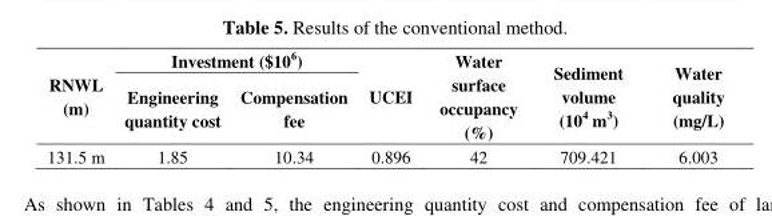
<table><thead><tr><td rowspan="2">RNWL (m)</td><td colspan="2">Investment ($10<sup>6</sup>)</td><td rowspan="2">UCEI</td><td rowspan="2">Water surface occupancy (%)</td><td rowspan="2">Sediment volume (10<sup>4</sup> m<sup>3</sup>)</td><td rowspan="2">Water quality (mg/L)</td></tr><tr><td>Engineering quantity cost</td><td>Compensation fee</td></tr></thead><tbody><tr><td>131.5 m</td><td>1.85</td><td>10.34</td><td>0.896</td><td>42</td><td>709.421</td><td>6.003</td></tr></tbody></table>